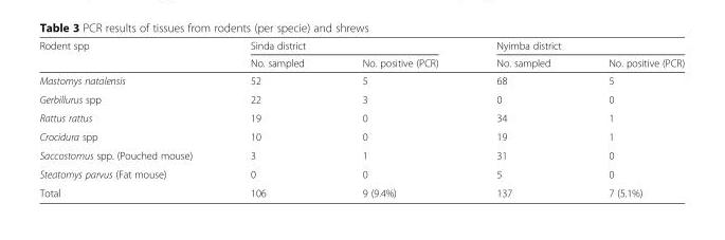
<table><thead><tr><td rowspan="2">Rodent spp</td><td colspan="2">Sinda district</td><td colspan="2">Nyimba district</td></tr><tr><td>No. sampled</td><td>No. positive (PCR)</td><td>No. sampled</td><td>No. positive (PCR)</td></tr></thead><tbody><tr><td>Mastomys natalensis</td><td>52</td><td>5</td><td>68</td><td>5</td></tr><tr><td>Gerbillurus spp</td><td>22</td><td>3</td><td>0</td><td>0</td></tr><tr><td>Rattus rattus</td><td>19</td><td>0</td><td>34</td><td>1</td></tr><tr><td>Crocidura spp</td><td>10</td><td>0</td><td>19</td><td>1</td></tr><tr><td>Saccostomus spp. (Pouched mouse)</td><td>3</td><td>1</td><td>31</td><td>0</td></tr><tr><td>Steatomys parvus (Fat mouse)</td><td>0</td><td>0</td><td>5</td><td>0</td></tr><tr><td>Total</td><td>106</td><td>9 (9.4%)</td><td>137</td><td>7 (5.1%)</td></tr></tbody></table>